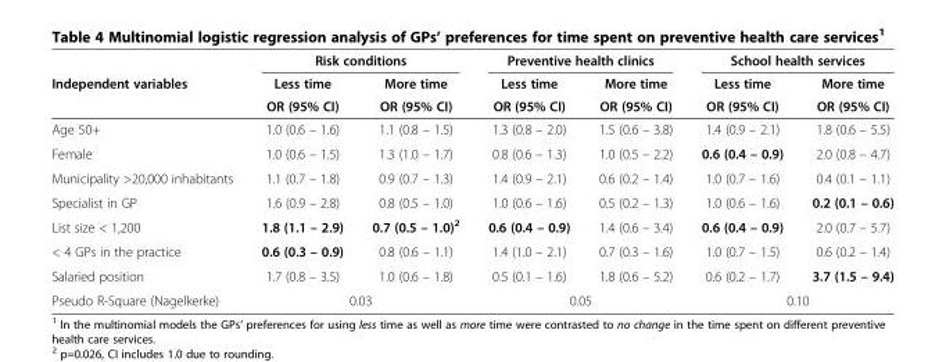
<table><thead><tr><td rowspan="3">Independent variables</td><td colspan="2">Risk conditions</td><td colspan="2">Preventive health clinics</td><td colspan="2">School health services</td></tr><tr><td rowspan="2">Less time OR (95% CI)</td><td rowspan="2">More time OR (95% CI)</td><td rowspan="2">Less time OR (95% CI)</td><td rowspan="2">More time OR (95% CI)</td><td rowspan="2">Less time OR (95% CI)</td><td rowspan="2">More time OR (95% CI)</td></tr><tr></tr></thead><tbody><tr><td>Age 50+</td><td>1.0 (0.6 – 1.6)</td><td>1.1 (0.8 – 1.5)</td><td>1.3 (0.8 – 2.0)</td><td>1.5 (0.6 – 3.8)</td><td>1.4 (0.9 – 2.1)</td><td>1.8 (0.6 – 5.5)</td></tr><tr><td>Female</td><td>1.0 (0.6 – 1.5)</td><td>1.3 (1.0 – 1.7)</td><td>0.8 (0.6 – 1.3)</td><td>1.0 (0.5 – 2.2)</td><td>0.6 (0.4 – 0.9)</td><td>2.0 (0.8 – 4.7)</td></tr><tr><td>Municipality &gt;20,000 inhabitants</td><td>1.1 (0.7 – 1.8)</td><td>0.9 (0.7 – 1.3)</td><td>1.4 (0.9 – 2.1)</td><td>0.6 (0.2 – 1.4)</td><td>1.0 (0.7 – 1.6)</td><td>0.4 (0.1 – 1.1)</td></tr><tr><td>Specialist in GP</td><td>1.6 (0.9 – 2.8)</td><td>0.8 (0.5 – 1.0)</td><td>1.0 (0.6 – 1.6)</td><td>0.5 (0.2 – 1.3)</td><td>1.0 (0.6 – 1.6)</td><td>0.2 (0.1 – 0.6)</td></tr><tr><td>List size &lt; 1,200</td><td>1.8 (1.1 – 2.9)</td><td>0.7 (0.5 – 1.0)<sup>2</sup></td><td>0.6 (0.4 – 0.9)</td><td>1.4 (0.6 – 3.4)</td><td>0.6 (0.4 – 0.9)</td><td>2.0 (0.7 – 5.7)</td></tr><tr><td>&lt; 4 GPs in the practice</td><td>0.6 (0.3 – 0.9)</td><td>0.8 (0.6 – 1.1)</td><td>1.4 (1.0 – 2.1)</td><td>0.7 (0.3 – 1.6)</td><td>1.0 (0.7 – 1.5)</td><td>0.6 (0.2 – 1.4)</td></tr><tr><td>Salaried position</td><td>1.7 (0.8 – 3.5)</td><td>1.0 (0.6 – 1.8)</td><td>0.5 (0.1 – 1.6)</td><td>1.8 (0.6 – 5.2)</td><td>0.6 (0.2 – 1.7)</td><td>3.7 (1.5 – 9.4)</td></tr><tr><td>Pseudo R-Square (Nagelkerke)</td><td colspan="2">0.03</td><td colspan="2">0.05</td><td colspan="2">0.10</td></tr></tbody></table>